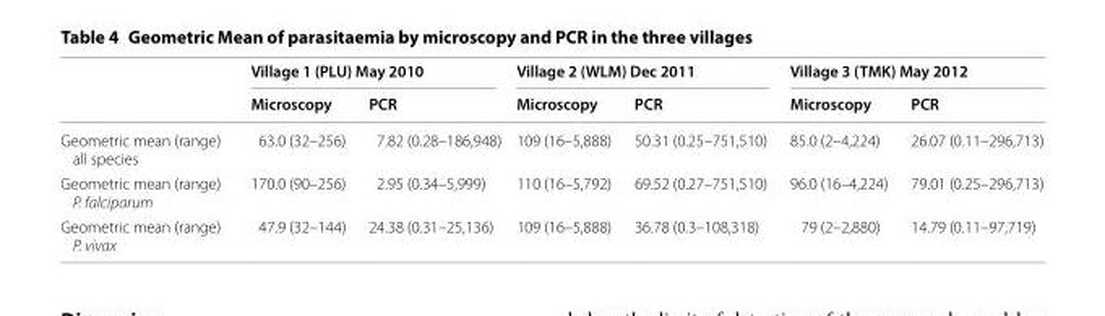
<table><thead><tr><td rowspan="2"></td><td colspan="2">Village 1 (PLU) May 2010</td><td colspan="2">Village 2 (WLM) Dec 2011</td><td colspan="2">Village 3 (TMK) May 2012</td></tr><tr><td>Microscopy</td><td>PCR</td><td>Microscopy</td><td>PCR</td><td>Microscopy</td><td>PCR</td></tr></thead><tbody><tr><td>Geometric mean (range) all species</td><td>63.0 (32–256)</td><td>7.82 (0.28–186,948)</td><td>109 (16–5,888)</td><td>50.31 (0.25–751,510)</td><td>85.0 (2–4,224)</td><td>26.07 (0.11–296,713)</td></tr><tr><td>Geometric mean (range) P. falciparum</td><td>170.0 (90–256)</td><td>2.95 (0.34–5,999)</td><td>110 (16–5,792)</td><td>69.52 (0.27–751,510)</td><td>96.0 (16–4,224)</td><td>79.01 (0.25–296,713)</td></tr><tr><td>Geometric mean (range) P. vivax</td><td>47.9 (32–144)</td><td>24.38 (0.31–25,136)</td><td>109 (16–5,888)</td><td>36.78 (0.3–108,318)</td><td>79 (2–2,880)</td><td>14.79 (0.11–97,719)</td></tr></tbody></table>